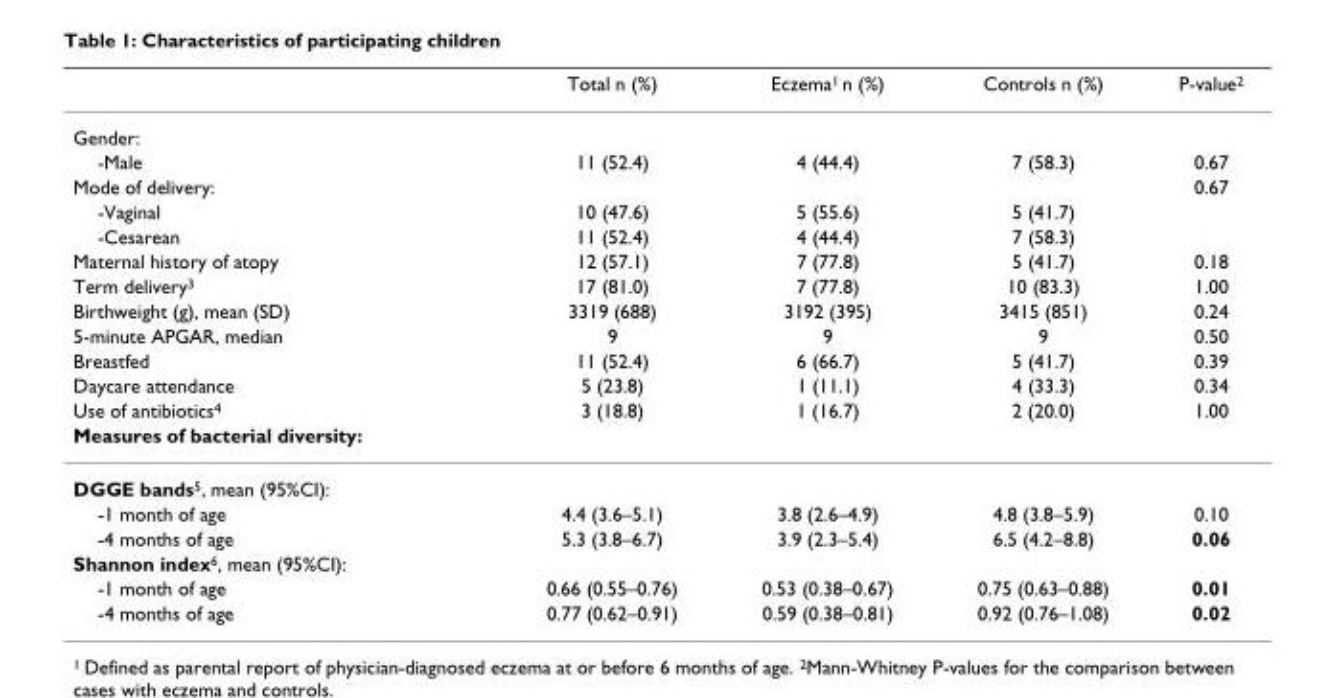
<table><thead><tr><td></td><td>Total n (%)</td><td>Eczema<sup>1</sup> n (%)</td><td>Controls n (%)</td><td>P-value<sup>2</sup></td></tr></thead><tbody><tr><td colspan="5">Gender:</td></tr><tr><td>-Male</td><td>11 (52.4)</td><td>4 (44.4)</td><td>7 (58.3)</td><td>0.67</td></tr><tr><td>Mode of delivery:</td><td></td><td></td><td></td><td>0.67</td></tr><tr><td>-Vaginal</td><td>10 (47.6)</td><td>5 (55.6)</td><td>5 (41.7)</td><td></td></tr><tr><td>-Cesarean</td><td>11 (52.4)</td><td>4 (44.4)</td><td>7 (58.3)</td><td></td></tr><tr><td>Maternal history of atopy</td><td>12 (57.1)</td><td>7 (77.8)</td><td>5 (41.7)</td><td>0.18</td></tr><tr><td>Term delivery<sup>3</sup></td><td>17 (81.0)</td><td>7 (77.8)</td><td>10 (83.3)</td><td>1.00</td></tr><tr><td>Birthweight (g), mean (SD)</td><td>3319 (688)</td><td>3192 (395)</td><td>3415 (851)</td><td>0.24</td></tr><tr><td>5-minute APGAR, median</td><td>9</td><td>9</td><td>9</td><td>0.50</td></tr><tr><td>Breastfed</td><td>11 (52.4)</td><td>6 (66.7)</td><td>5 (41.7)</td><td>0.39</td></tr><tr><td>Daycare attendance</td><td>5 (23.8)</td><td>1 (11.1)</td><td>4 (33.3)</td><td>0.34</td></tr><tr><td>Use of antibiotics<sup>4</sup></td><td>3 (18.8)</td><td>1 (16.7)</td><td>2 (20.0)</td><td>1.00</td></tr><tr><td colspan="5">Measures of bacterial diversity:</td></tr><tr><td colspan="5">DGGE bands<sup>5</sup>, mean (95%CI):</td></tr><tr><td>-1 month of age</td><td>4.4 (3.6–5.1)</td><td>3.8 (2.6–4.9)</td><td>4.8 (3.8–5.9)</td><td>0.10</td></tr><tr><td>-4 months of age</td><td>5.3 (3.8–6.7)</td><td>3.9 (2.3–5.4)</td><td>6.5 (4.2–8.8)</td><td>0.06</td></tr><tr><td colspan="5">Shannon index<sup>6</sup>, mean (95%CI):</td></tr><tr><td>-1 month of age</td><td>0.66 (0.55–0.76)</td><td>0.53 (0.38–0.67)</td><td>0.75 (0.63–0.88)</td><td>0.01</td></tr><tr><td>-4 months of age</td><td>0.77 (0.62–0.91)</td><td>0.59 (0.38–0.81)</td><td>0.92 (0.76–1.08)</td><td>0.02</td></tr></tbody></table>